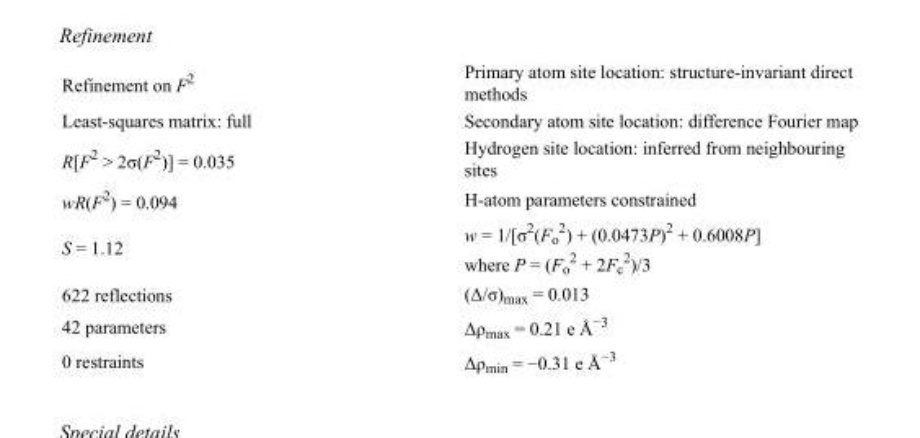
<table><tbody><tr><td>Refinement on F<sup>2</sup></td><td>Primary atom site location: structure-invariant direct methods</td></tr><tr><td>Least-squares matrix: full</td><td>Secondary atom site location: difference Fourier map</td></tr><tr><td>R[F<sup>2</sup> &gt; 2σ(F<sup>2</sup>)] = 0.035</td><td>Hydrogen site location: inferred from neighbouring sites</td></tr><tr><td>wR(F<sup>2</sup>) = 0.094</td><td>H-atom parameters constrained</td></tr><tr><td>S = 1.12</td><td>w = 1/[σ<sup>2</sup>(F<sub>o</sub> <sup>2</sup>) + (0.0473P)<sup>2</sup> + 0.6008P] where P = (F<sub>o</sub> <sup>2</sup> + 2F<sub>c</sub> <sup>2</sup>)/3</td></tr><tr><td>622 reflections</td><td>(Δ/σ)<sub>max</sub> = 0.013</td></tr><tr><td>42 parameters</td><td>Δρ<sub>max</sub> = 0.21 e Å<sup>−3</sup></td></tr><tr><td>0 restraints</td><td>Δρ<sub>min</sub> = −0.31 e Å<sup>−3</sup></td></tr></tbody></table>